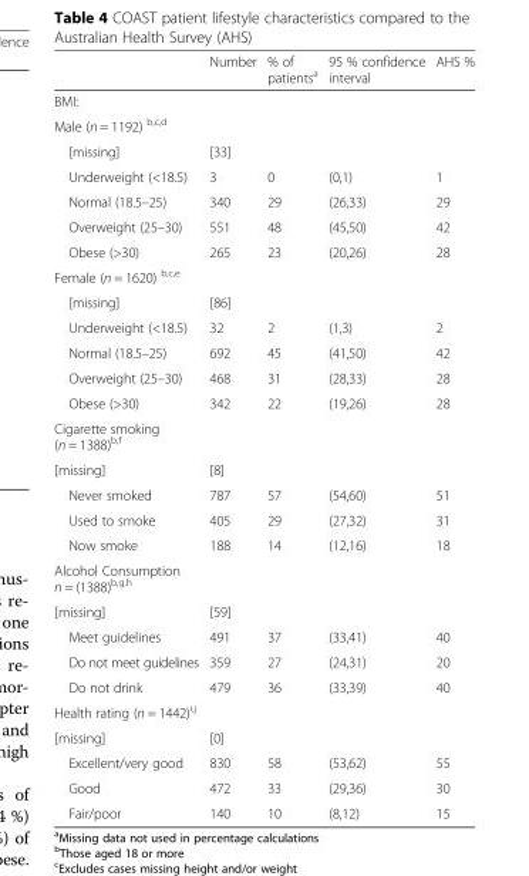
<table><thead><tr><td></td><td>Number</td><td>% of patients<sup>a</sup></td><td>95 % confidence interval</td><td>AHS %</td></tr></thead><tbody><tr><td colspan="5">BMI:</td></tr><tr><td colspan="5">Male (n = 1192) <sup>b,c,d</sup></td></tr><tr><td>[missing]</td><td>[33]</td><td></td><td></td><td></td></tr><tr><td>Underweight (&lt;18.5)</td><td>3</td><td>0</td><td>(0,1)</td><td>1</td></tr><tr><td>Normal (18.5–25)</td><td>340</td><td>29</td><td>(26,33)</td><td>29</td></tr><tr><td>Overweight (25–30)</td><td>551</td><td>48</td><td>(45,50)</td><td>42</td></tr><tr><td>Obese (&gt;30)</td><td>265</td><td>23</td><td>(20,26)</td><td>28</td></tr><tr><td colspan="5">Female (n = 1620) <sup>b,c,e</sup></td></tr><tr><td>[missing]</td><td>[86]</td><td></td><td></td><td></td></tr><tr><td>Underweight (&lt;18.5)</td><td>32</td><td>2</td><td>(1,3)</td><td>2</td></tr><tr><td>Normal (18.5–25)</td><td>692</td><td>45</td><td>(41,50)</td><td>42</td></tr><tr><td>Overweight (25–30)</td><td>468</td><td>31</td><td>(28,33)</td><td>28</td></tr><tr><td>Obese (&gt;30)</td><td>342</td><td>22</td><td>(19,26)</td><td>28</td></tr><tr><td colspan="5">Cigarette smoking (n = 1388)<sup>b,f</sup></td></tr><tr><td>[missing]</td><td>[8]</td><td></td><td></td><td></td></tr><tr><td>Never smoked</td><td>787</td><td>57</td><td>(54,60)</td><td>51</td></tr><tr><td>Used to smoke</td><td>405</td><td>29</td><td>(27,32)</td><td>31</td></tr><tr><td>Now smoke</td><td>188</td><td>14</td><td>(12,16)</td><td>18</td></tr><tr><td colspan="5">Alcohol Consumption n = (1388)<sup>b,g,h</sup></td></tr><tr><td>[missing]</td><td>[59]</td><td></td><td></td><td></td></tr><tr><td>Meet guidelines</td><td>491</td><td>37</td><td>(33,41)</td><td>40</td></tr><tr><td>Do not meet guidelines</td><td>359</td><td>27</td><td>(24,31)</td><td>20</td></tr><tr><td>Do not drink</td><td>479</td><td>36</td><td>(33,39)</td><td>40</td></tr><tr><td colspan="5">Health rating (n = 1442)<sup>i,j</sup></td></tr><tr><td>[missing]</td><td>[0]</td><td></td><td></td><td></td></tr><tr><td>Excellent/very good</td><td>830</td><td>58</td><td>(53,62)</td><td>55</td></tr><tr><td>Good</td><td>472</td><td>33</td><td>(29,36)</td><td>30</td></tr><tr><td>Fair/poor</td><td>140</td><td>10</td><td>(8,12)</td><td>15</td></tr></tbody></table>